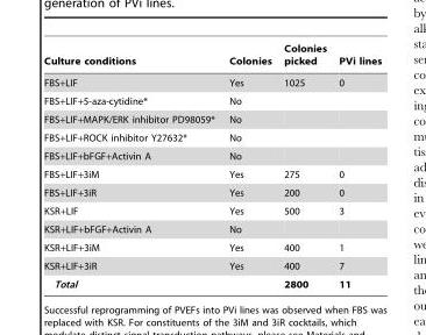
<table><thead><tr><td>Culture conditions</td><td>Colonies</td><td>Colonies picked</td><td>PVi lines</td></tr></thead><tbody><tr><td>FBS+LIF</td><td>Yes</td><td>1025</td><td>0</td></tr><tr><td>FBS+LIF+5-aza-cytidine*</td><td>No</td><td></td><td></td></tr><tr><td>FBS+LIF+MAPK/ERK inhibitor PD98059*</td><td>No</td><td></td><td></td></tr><tr><td>FBS+LIF+ROCK inhibitor Y27632*</td><td>No</td><td></td><td></td></tr><tr><td>FBS+LIF+bFGF+Activin A</td><td>No</td><td></td><td></td></tr><tr><td>FBS+LIF+3iM</td><td>Yes</td><td>275</td><td>0</td></tr><tr><td>FBS+LIF+3iR</td><td>Yes</td><td>200</td><td>0</td></tr><tr><td>KSR+LIF</td><td>Yes</td><td>500</td><td>3</td></tr><tr><td>KSR+LIF+bFGF+Activin A</td><td>No</td><td></td><td></td></tr><tr><td>KSR+LIF+3iM</td><td>Yes</td><td>400</td><td>1</td></tr><tr><td>KSR+LIF+3iR</td><td>Yes</td><td>400</td><td>7</td></tr><tr><td>Total</td><td></td><td>2800</td><td>11</td></tr></tbody></table>